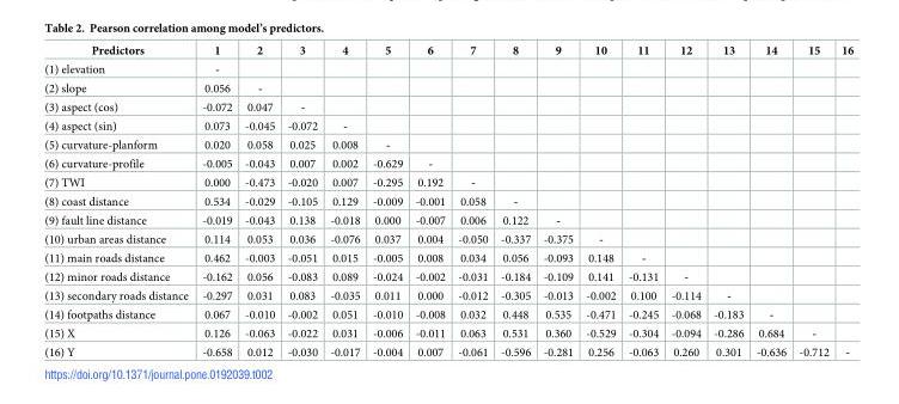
<table><thead><tr><td>Predictors</td><td>1</td><td>2</td><td>3</td><td>4</td><td>5</td><td>6</td><td>7</td><td>8</td><td>9</td><td>10</td><td>11</td><td>12</td><td>13</td><td>14</td><td>15</td><td>16</td></tr></thead><tbody><tr><td>(1) elevation</td><td>-</td><td></td><td></td><td></td><td></td><td></td><td></td><td></td><td></td><td></td><td></td><td></td><td></td><td></td><td></td><td></td></tr><tr><td>(2) slope</td><td>0.056</td><td>-</td><td></td><td></td><td></td><td></td><td></td><td></td><td></td><td></td><td></td><td></td><td></td><td></td><td></td><td></td></tr><tr><td>(3) aspect (cos)</td><td>-0.072</td><td>0.047</td><td>-</td><td></td><td></td><td></td><td></td><td></td><td></td><td></td><td></td><td></td><td></td><td></td><td></td><td></td></tr><tr><td>(4) aspect (sin)</td><td>0.073</td><td>-0.045</td><td>-0.072</td><td>-</td><td></td><td></td><td></td><td></td><td></td><td></td><td></td><td></td><td></td><td></td><td></td><td></td></tr><tr><td>(5) curvature-planform</td><td>0.020</td><td>0.058</td><td>0.025</td><td>0.008</td><td>-</td><td></td><td></td><td></td><td></td><td></td><td></td><td></td><td></td><td></td><td></td><td></td></tr><tr><td>(6) curvature-profile</td><td>-0.005</td><td>-0.043</td><td>0.007</td><td>0.002</td><td>-0.629</td><td>-</td><td></td><td></td><td></td><td></td><td></td><td></td><td></td><td></td><td></td><td></td></tr><tr><td>(7) TWI</td><td>0.000</td><td>-0.473</td><td>-0.020</td><td>0.007</td><td>-0.295</td><td>0.192</td><td>-</td><td></td><td></td><td></td><td></td><td></td><td></td><td></td><td></td><td></td></tr><tr><td>(8) coast distance</td><td>0.534</td><td>-0.029</td><td>-0.105</td><td>0.129</td><td>-0.009</td><td>-0.001</td><td>0.058</td><td>-</td><td></td><td></td><td></td><td></td><td></td><td></td><td></td><td></td></tr><tr><td>(9) fault line distance</td><td>-0.019</td><td>-0.043</td><td>0.138</td><td>-0.018</td><td>0.000</td><td>-0.007</td><td>0.006</td><td>0.122</td><td>-</td><td></td><td></td><td></td><td></td><td></td><td></td><td></td></tr><tr><td>(10) urban areas distance</td><td>0.114</td><td>0.053</td><td>0.036</td><td>-0.076</td><td>0.037</td><td>0.004</td><td>-0.050</td><td>-0.337</td><td>-0.375</td><td>-</td><td></td><td></td><td></td><td></td><td></td><td></td></tr><tr><td>(11) main roads distance</td><td>0.462</td><td>-0.003</td><td>-0.051</td><td>0.015</td><td>-0.005</td><td>0.008</td><td>0.034</td><td>0.056</td><td>-0.093</td><td>0.148</td><td>-</td><td></td><td></td><td></td><td></td><td></td></tr><tr><td>(12) minor roads distance</td><td>-0.162</td><td>0.056</td><td>-0.083</td><td>0.089</td><td>-0.024</td><td>-0.002</td><td>-0.031</td><td>-0.184</td><td>-0.109</td><td>0.141</td><td>-0.131</td><td>-</td><td></td><td></td><td></td><td></td></tr><tr><td>(13) secondary roads distance</td><td>-0.297</td><td>0.031</td><td>0.083</td><td>-0.035</td><td>0.011</td><td>0.000</td><td>-0.012</td><td>-0.305</td><td>-0.013</td><td>-0.002</td><td>0.100</td><td>-0.114</td><td>-</td><td></td><td></td><td></td></tr><tr><td>(14) footpaths distance</td><td>0.067</td><td>-0.010</td><td>-0.002</td><td>0.051</td><td>-0.010</td><td>-0.008</td><td>0.032</td><td>0.448</td><td>0.535</td><td>-0.471</td><td>-0.245</td><td>-0.068</td><td>-0.183</td><td>-</td><td></td><td></td></tr><tr><td>(15) X</td><td>0.126</td><td>-0.063</td><td>-0.022</td><td>0.031</td><td>-0.006</td><td>-0.011</td><td>0.063</td><td>0.531</td><td>0.360</td><td>-0.529</td><td>-0.304</td><td>-0.094</td><td>-0.286</td><td>0.684</td><td>-</td><td></td></tr><tr><td>(16) Y</td><td>-0.658</td><td>0.012</td><td>-0.030</td><td>-0.017</td><td>-0.004</td><td>0.007</td><td>-0.061</td><td>-0.596</td><td>-0.281</td><td>0.256</td><td>-0.063</td><td>0.260</td><td>0.301</td><td>-0.636</td><td>-0.712</td><td>-</td></tr></tbody></table>